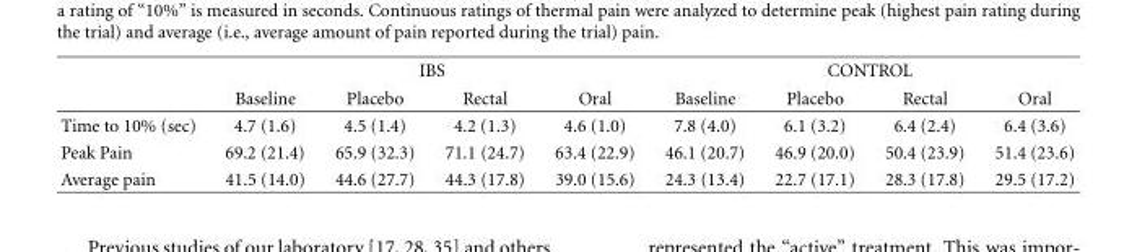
<table><thead><tr><td rowspan="2"></td><td colspan="4">IBS</td><td colspan="4">CONTROL</td></tr><tr><td>Baseline</td><td>Placebo</td><td>Rectal</td><td>Oral</td><td>Baseline</td><td>Placebo</td><td>Rectal</td><td>Oral</td></tr></thead><tbody><tr><td>Time to 10% (sec)</td><td>4.7 (1.6)</td><td>4.5 (1.4)</td><td>4.2 (1.3)</td><td>4.6 (1.0)</td><td>7.8 (4.0)</td><td>6.1 (3.2)</td><td>6.4 (2.4)</td><td>6.4 (3.6)</td></tr><tr><td>Peak Pain</td><td>69.2 (21.4)</td><td>65.9 (32.3)</td><td>71.1 (24.7)</td><td>63.4 (22.9)</td><td>46.1 (20.7)</td><td>46.9 (20.0)</td><td>50.4 (23.9)</td><td>51.4 (23.6)</td></tr><tr><td>Average pain</td><td>41.5 (14.0)</td><td>44.6 (27.7)</td><td>44.3 (17.8)</td><td>39.0 (15.6)</td><td>24.3 (13.4)</td><td>22.7 (17.1)</td><td>28.3 (17.8)</td><td>29.5 (17.2)</td></tr></tbody></table>